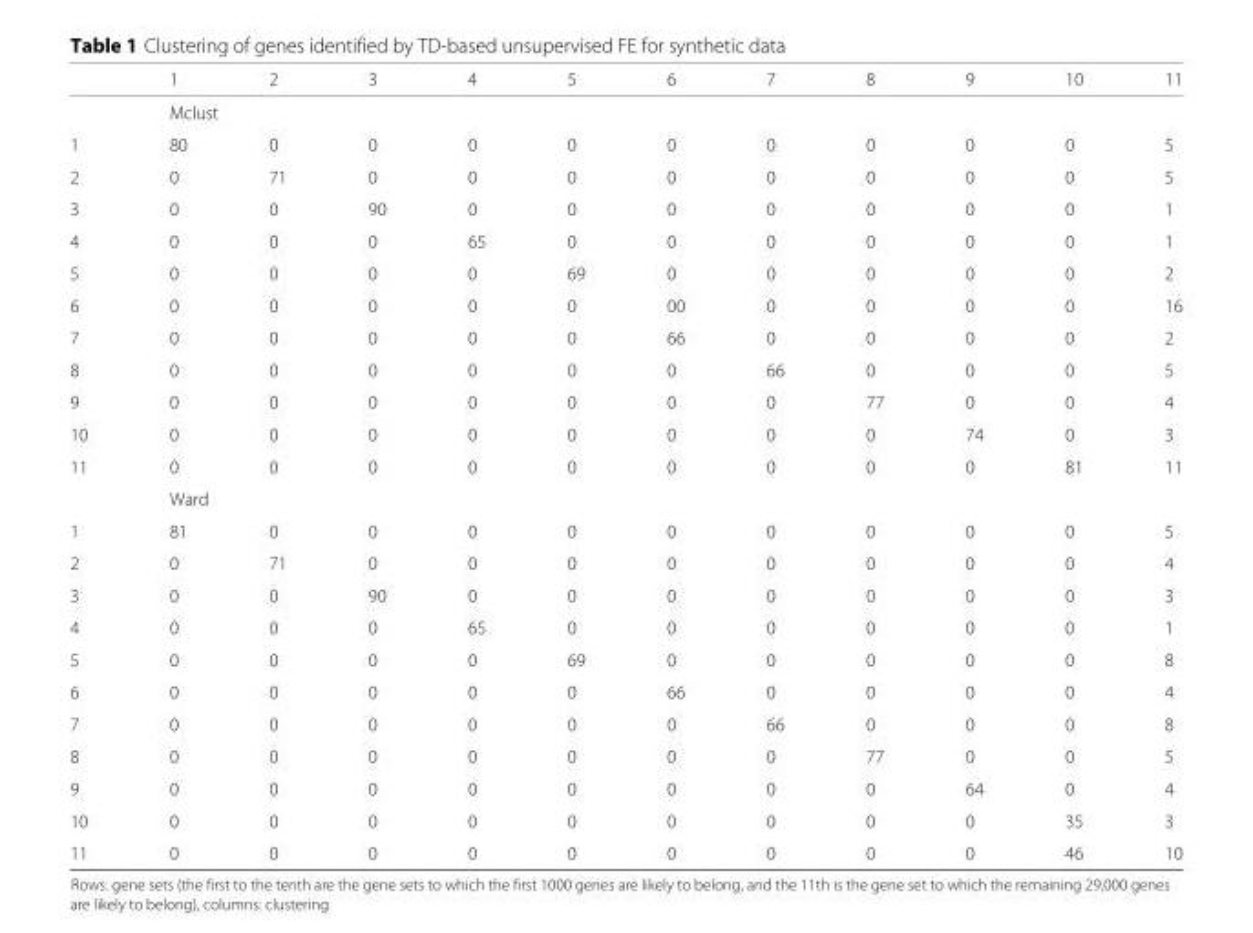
<table><thead><tr><td></td><td>1</td><td>2</td><td>3</td><td>4</td><td>5</td><td>6</td><td>7</td><td>8</td><td>9</td><td>10</td><td>11</td></tr></thead><tbody><tr><td></td><td colspan="11">Mclust</td></tr><tr><td>1</td><td>80</td><td>0</td><td>0</td><td>0</td><td>0</td><td>0</td><td>0</td><td>0</td><td>0</td><td>0</td><td>5</td></tr><tr><td>2</td><td>0</td><td>71</td><td>0</td><td>0</td><td>0</td><td>0</td><td>0</td><td>0</td><td>0</td><td>0</td><td>5</td></tr><tr><td>3</td><td>0</td><td>0</td><td>90</td><td>0</td><td>0</td><td>0</td><td>0</td><td>0</td><td>0</td><td>0</td><td>1</td></tr><tr><td>4</td><td>0</td><td>0</td><td>0</td><td>65</td><td>0</td><td>0</td><td>0</td><td>0</td><td>0</td><td>0</td><td>1</td></tr><tr><td>5</td><td>0</td><td>0</td><td>0</td><td>0</td><td>69</td><td>0</td><td>0</td><td>0</td><td>0</td><td>0</td><td>2</td></tr><tr><td>6</td><td>0</td><td>0</td><td>0</td><td>0</td><td>0</td><td>00</td><td>0</td><td>0</td><td>0</td><td>0</td><td>16</td></tr><tr><td>7</td><td>0</td><td>0</td><td>0</td><td>0</td><td>0</td><td>66</td><td>0</td><td>0</td><td>0</td><td>0</td><td>2</td></tr><tr><td>8</td><td>0</td><td>0</td><td>0</td><td>0</td><td>0</td><td>0</td><td>66</td><td>0</td><td>0</td><td>0</td><td>5</td></tr><tr><td>9</td><td>0</td><td>0</td><td>0</td><td>0</td><td>0</td><td>0</td><td>0</td><td>77</td><td>0</td><td>0</td><td>4</td></tr><tr><td>10</td><td>0</td><td>0</td><td>0</td><td>0</td><td>0</td><td>0</td><td>0</td><td>0</td><td>74</td><td>0</td><td>3</td></tr><tr><td rowspan="2">11</td><td>0</td><td>0</td><td>0</td><td>0</td><td>0</td><td>0</td><td>0</td><td>0</td><td>0</td><td>81</td><td>11</td></tr><tr><td colspan="11">Ward</td></tr><tr><td>1</td><td>81</td><td>0</td><td>0</td><td>0</td><td>0</td><td>0</td><td>0</td><td>0</td><td>0</td><td>0</td><td>5</td></tr><tr><td>2</td><td>0</td><td>71</td><td>0</td><td>0</td><td>0</td><td>0</td><td>0</td><td>0</td><td>0</td><td>0</td><td>4</td></tr><tr><td>3</td><td>0</td><td>0</td><td>90</td><td>0</td><td>0</td><td>0</td><td>0</td><td>0</td><td>0</td><td>0</td><td>3</td></tr><tr><td>4</td><td>0</td><td>0</td><td>0</td><td>65</td><td>0</td><td>0</td><td>0</td><td>0</td><td>0</td><td>0</td><td>1</td></tr><tr><td>5</td><td>0</td><td>0</td><td>0</td><td>0</td><td>69</td><td>0</td><td>0</td><td>0</td><td>0</td><td>0</td><td>8</td></tr><tr><td>6</td><td>0</td><td>0</td><td>0</td><td>0</td><td>0</td><td>66</td><td>0</td><td>0</td><td>0</td><td>0</td><td>4</td></tr><tr><td>7</td><td>0</td><td>0</td><td>0</td><td>0</td><td>0</td><td>0</td><td>66</td><td>0</td><td>0</td><td>0</td><td>8</td></tr><tr><td>8</td><td>0</td><td>0</td><td>0</td><td>0</td><td>0</td><td>0</td><td>0</td><td>77</td><td>0</td><td>0</td><td>5</td></tr><tr><td>9</td><td>0</td><td>0</td><td>0</td><td>0</td><td>0</td><td>0</td><td>0</td><td>0</td><td>64</td><td>0</td><td>4</td></tr><tr><td>10</td><td>0</td><td>0</td><td>0</td><td>0</td><td>0</td><td>0</td><td>0</td><td>0</td><td>0</td><td>35</td><td>3</td></tr><tr><td>11</td><td>0</td><td>0</td><td>0</td><td>0</td><td>0</td><td>0</td><td>0</td><td>0</td><td>0</td><td>46</td><td>10</td></tr></tbody></table>